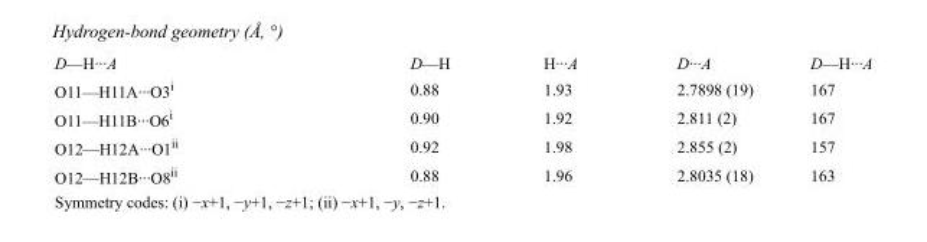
<table><tbody><tr><td>D—H···A</td><td>D—H</td><td>H···A</td><td>D···A</td><td>D—H···A</td></tr><tr><td>O11—H11A···O3<sup>i</sup></td><td>0.88</td><td>1.93</td><td>2.7898 (19)</td><td>167</td></tr><tr><td>O11—H11B···O6<sup>i</sup></td><td>0.90</td><td>1.92</td><td>2.811 (2)</td><td>167</td></tr><tr><td>O12—H12A···O1<sup>ii</sup></td><td>0.92</td><td>1.98</td><td>2.855 (2)</td><td>157</td></tr><tr><td>O12—H12B···O8<sup>ii</sup></td><td>0.88</td><td>1.96</td><td>2.8035 (18)</td><td>163</td></tr></tbody></table>